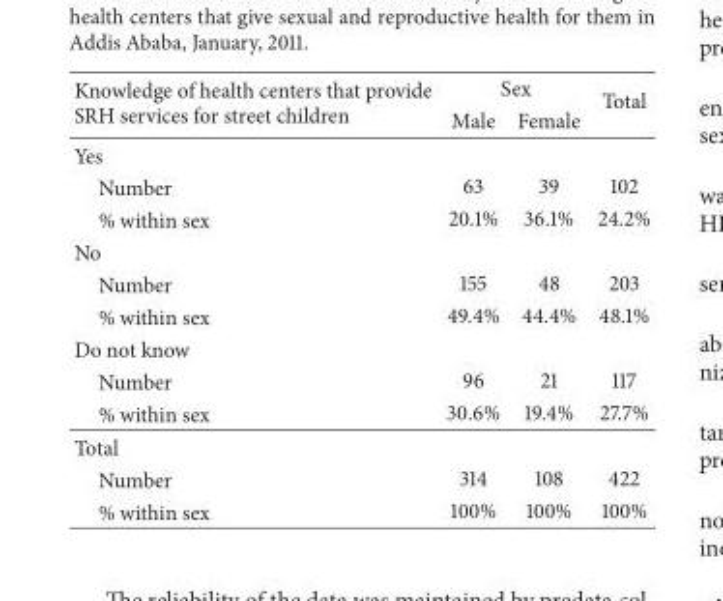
<table><thead><tr><td rowspan="2">Knowledge of health centers that provide SRH services for street children</td><td colspan="2">Sex</td><td rowspan="2">Total</td></tr><tr><td>Male</td><td>Female</td></tr></thead><tbody><tr><td colspan="4">Yes</td></tr><tr><td>Number</td><td>63</td><td>39</td><td>102</td></tr><tr><td>% within sex</td><td>20.1%</td><td>36.1%</td><td>24.2%</td></tr><tr><td colspan="4">No</td></tr><tr><td>Number</td><td>155</td><td>48</td><td>203</td></tr><tr><td>% within sex</td><td>49.4%</td><td>44.4%</td><td>48.1%</td></tr><tr><td colspan="4">Do not know</td></tr><tr><td>Number</td><td>96</td><td>21</td><td>117</td></tr><tr><td>% within sex</td><td>30.6%</td><td>19.4%</td><td>27.7%</td></tr><tr><td colspan="4">Total</td></tr><tr><td>Number</td><td>314</td><td>108</td><td>422</td></tr><tr><td>% within sex</td><td>100%</td><td>100%</td><td>100%</td></tr></tbody></table>